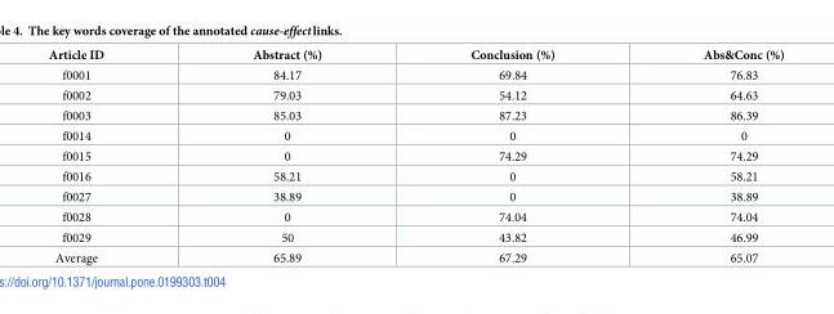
<table><thead><tr><td>Article ID</td><td>Abstract (%)</td><td>Conclusion (%)</td><td>Abs&amp;Conc (%)</td></tr></thead><tbody><tr><td>f0001</td><td>84.17</td><td>69.84</td><td>76.83</td></tr><tr><td>f0002</td><td>79.03</td><td>54.12</td><td>64.63</td></tr><tr><td>f0003</td><td>85.03</td><td>87.23</td><td>86.39</td></tr><tr><td>f0014</td><td>0</td><td>0</td><td>0</td></tr><tr><td>f0015</td><td>0</td><td>74.29</td><td>74.29</td></tr><tr><td>f0016</td><td>58.21</td><td>0</td><td>58.21</td></tr><tr><td>f0027</td><td>38.89</td><td>0</td><td>38.89</td></tr><tr><td>f0028</td><td>0</td><td>74.04</td><td>74.04</td></tr><tr><td>f0029</td><td>50</td><td>43.82</td><td>46.99</td></tr><tr><td>Average</td><td>65.89</td><td>67.29</td><td>65.07</td></tr></tbody></table>